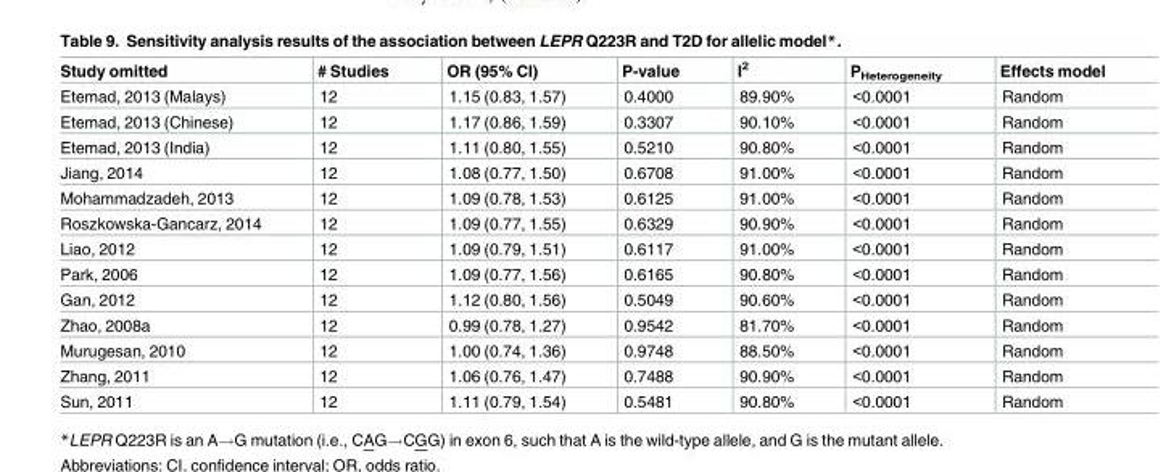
<table><thead><tr><td>Study omitted</td><td># Studies</td><td>OR (95% CI)</td><td>P-value</td><td>I<sup>2</sup></td><td>P<sub>Heterogeneity</sub></td><td>Effects model</td></tr></thead><tbody><tr><td>Etemad, 2013 (Malays)</td><td>12</td><td>1.15 (0.83, 1.57)</td><td>0.4000</td><td>89.90%</td><td>&lt;0.0001</td><td>Random</td></tr><tr><td>Etemad, 2013 (Chinese)</td><td>12</td><td>1.17 (0.86, 1.59)</td><td>0.3307</td><td>90.10%</td><td>&lt;0.0001</td><td>Random</td></tr><tr><td>Etemad, 2013 (India)</td><td>12</td><td>1.11 (0.80, 1.55)</td><td>0.5210</td><td>90.80%</td><td>&lt;0.0001</td><td>Random</td></tr><tr><td>Jiang, 2014</td><td>12</td><td>1.08 (0.77, 1.50)</td><td>0.6708</td><td>91.00%</td><td>&lt;0.0001</td><td>Random</td></tr><tr><td>Mohammadzadeh, 2013</td><td>12</td><td>1.09 (0.78, 1.53)</td><td>0.6125</td><td>91.00%</td><td>&lt;0.0001</td><td>Random</td></tr><tr><td>Roszkowska-Gancarz, 2014</td><td>12</td><td>1.09 (0.77, 1.55)</td><td>0.6329</td><td>90.90%</td><td>&lt;0.0001</td><td>Random</td></tr><tr><td>Liao, 2012</td><td>12</td><td>1.09 (0.79, 1.51)</td><td>0.6117</td><td>91.00%</td><td>&lt;0.0001</td><td>Random</td></tr><tr><td>Park, 2006</td><td>12</td><td>1.09 (0.77, 1.56)</td><td>0.6165</td><td>90.80%</td><td>&lt;0.0001</td><td>Random</td></tr><tr><td>Gan, 2012</td><td>12</td><td>1.12 (0.80, 1.56)</td><td>0.5049</td><td>90.60%</td><td>&lt;0.0001</td><td>Random</td></tr><tr><td>Zhao, 2008a</td><td>12</td><td>0.99 (0.78, 1.27)</td><td>0.9542</td><td>81.70%</td><td>&lt;0.0001</td><td>Random</td></tr><tr><td>Murugesan, 2010</td><td>12</td><td>1.00 (0.74, 1.36)</td><td>0.9748</td><td>88.50%</td><td>&lt;0.0001</td><td>Random</td></tr><tr><td>Zhang, 2011</td><td>12</td><td>1.06 (0.76, 1.47)</td><td>0.7488</td><td>90.90%</td><td>&lt;0.0001</td><td>Random</td></tr><tr><td>Sun, 2011</td><td>12</td><td>1.11 (0.79, 1.54)</td><td>0.5481</td><td>90.80%</td><td>&lt;0.0001</td><td>Random</td></tr></tbody></table>